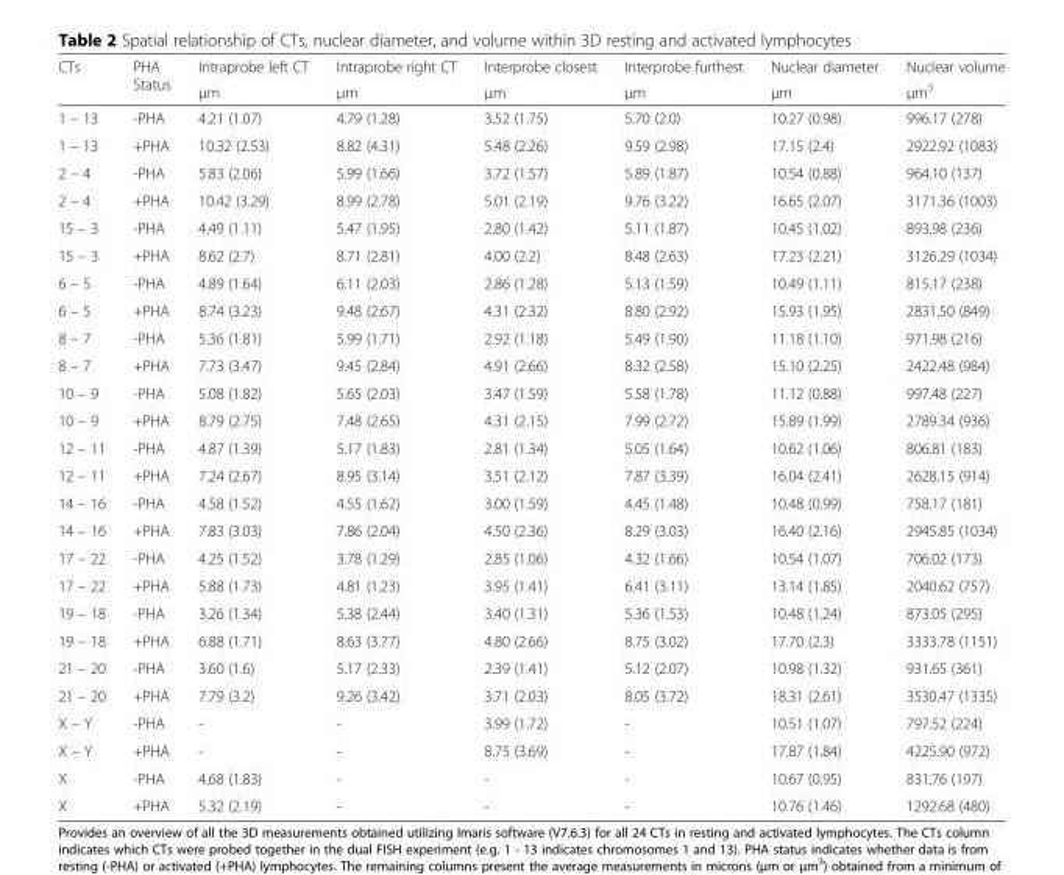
<table><thead><tr><td rowspan="2">CTs</td><td rowspan="2">PHA Status</td><td rowspan="2">Intraprobe left CT μm</td><td rowspan="2">Intraprobe right CT μm</td><td rowspan="2">Interprobe closest μm</td><td rowspan="2">Interprobe furthest μm</td><td rowspan="2">Nuclear diameter μm</td><td rowspan="2">Nuclear volume μm<sup>3</sup></td></tr><tr></tr></thead><tbody><tr><td>1 – 13</td><td>-PHA</td><td>4.21 (1.07)</td><td>4.79 (1.28)</td><td>3.52 (1.75)</td><td>5.70 (2.0)</td><td>10.27 (0.98)</td><td>996.17 (278)</td></tr><tr><td>1 – 13</td><td>+PHA</td><td>10.32 (2.53)</td><td>8.82 (4.31)</td><td>5.48 (2.26)</td><td>9.59 (2.98)</td><td>17.15 (2.4)</td><td>2922.92 (1083)</td></tr><tr><td>2 – 4</td><td>-PHA</td><td>5.83 (2.06)</td><td>5.99 (1.66)</td><td>3.72 (1.57)</td><td>5.89 (1.87)</td><td>10.54 (0.88)</td><td>964.10 (137)</td></tr><tr><td>2 – 4</td><td>+PHA</td><td>10.42 (3.29)</td><td>8.99 (2.78)</td><td>5.01 (2.19)</td><td>9.76 (3.22)</td><td>16.65 (2.07)</td><td>3171.36 (1003)</td></tr><tr><td>15 – 3</td><td>-PHA</td><td>4.49 (1.11)</td><td>5.47 (1.95)</td><td>2.80 (1.42)</td><td>5.11 (1.87)</td><td>10.45 (1.02)</td><td>893.98 (236)</td></tr><tr><td>15 – 3</td><td>+PHA</td><td>8.62 (2.7)</td><td>8.71 (2.81)</td><td>4.00 (2.2)</td><td>8.48 (2.63)</td><td>17.23 (2.21)</td><td>3126.29 (1034)</td></tr><tr><td>6 – 5</td><td>-PHA</td><td>4.89 (1.64)</td><td>6.11 (2.03)</td><td>2.86 (1.28)</td><td>5.13 (1.59)</td><td>10.49 (1.11)</td><td>815.17 (238)</td></tr><tr><td>6 – 5</td><td>+PHA</td><td>8.74 (3.23)</td><td>9.48 (2.67)</td><td>4.31 (2.32)</td><td>8.80 (2.92)</td><td>15.93 (1.95)</td><td>2831.50 (849)</td></tr><tr><td>8 – 7</td><td>-PHA</td><td>5.36 (1.81)</td><td>5.99 (1.71)</td><td>2.92 (1.18)</td><td>5.49 (1.90)</td><td>11.18 (1.10)</td><td>971.98 (216)</td></tr><tr><td>8 – 7</td><td>+PHA</td><td>7.73 (3.47)</td><td>9.45 (2.84)</td><td>4.91 (2.66)</td><td>8.32 (2.58)</td><td>15.10 (2.25)</td><td>2422.48 (984)</td></tr><tr><td>10 – 9</td><td>-PHA</td><td>5.08 (1.82)</td><td>5.65 (2.03)</td><td>3.47 (1.59)</td><td>5.58 (1.78)</td><td>11.12 (0.88)</td><td>997.48 (227)</td></tr><tr><td>10 – 9</td><td>+PHA</td><td>8.79 (2.75)</td><td>7.48 (2.65)</td><td>4.31 (2.15)</td><td>7.99 (2.72)</td><td>15.89 (1.99)</td><td>2789.34 (936)</td></tr><tr><td>12 – 11</td><td>-PHA</td><td>4.87 (1.39)</td><td>5.17 (1.83)</td><td>2.81 (1.34)</td><td>5.05 (1.64)</td><td>10.62 (1.06)</td><td>806.81 (183)</td></tr><tr><td>12 – 11</td><td>+PHA</td><td>7.24 (2.67)</td><td>8.95 (3.14)</td><td>3.51 (2.12)</td><td>7.87 (3.39)</td><td>16.04 (2.41)</td><td>2628.15 (914)</td></tr><tr><td>14 – 16</td><td>-PHA</td><td>4.58 (1.52)</td><td>4.55 (1.62)</td><td>3.00 (1.59)</td><td>4.45 (1.48)</td><td>10.48 (0.99)</td><td>758.17 (181)</td></tr><tr><td>14 – 16</td><td>+PHA</td><td>7.83 (3.03)</td><td>7.86 (2.04)</td><td>4.50 (2.36)</td><td>8.29 (3.03)</td><td>16.40 (2.16)</td><td>2945.85 (1034)</td></tr><tr><td>17 – 22</td><td>-PHA</td><td>4.25 (1.52)</td><td>3.78 (1.29)</td><td>2.85 (1.06)</td><td>4.32 (1.66)</td><td>10.54 (1.07)</td><td>706.02 (173)</td></tr><tr><td>17 – 22</td><td>+PHA</td><td>5.88 (1.73)</td><td>4.81 (1.23)</td><td>3.95 (1.41)</td><td>6.41 (3.11)</td><td>13.14 (1.85)</td><td>2040.62 (757)</td></tr><tr><td>19 – 18</td><td>-PHA</td><td>3.26 (1.34)</td><td>5.38 (2.44)</td><td>3.40 (1.31)</td><td>5.36 (1.53)</td><td>10.48 (1.24)</td><td>873.05 (295)</td></tr><tr><td>19 – 18</td><td>+PHA</td><td>6.88 (1.71)</td><td>8.63 (3.77)</td><td>4.80 (2.66)</td><td>8.75 (3.02)</td><td>17.70 (2.3)</td><td>3333.78 (1151)</td></tr><tr><td>21 – 20</td><td>-PHA</td><td>3.60 (1.6)</td><td>5.17 (2.33)</td><td>2.39 (1.41)</td><td>5.12 (2.07)</td><td>10.98 (1.32)</td><td>931.65 (361)</td></tr><tr><td>21 – 20</td><td>+PHA</td><td>7.79 (3.2)</td><td>9.26 (3.42)</td><td>3.71 (2.03)</td><td>8.05 (3.72)</td><td>18.31 (2.61)</td><td>3530.47 (1335)</td></tr><tr><td>X – Y</td><td>-PHA</td><td>-</td><td>-</td><td>3.99 (1.72)</td><td>-</td><td>10.51 (1.07)</td><td>797.52 (224)</td></tr><tr><td>X – Y</td><td>+PHA</td><td>-</td><td>-</td><td>8.75 (3.69)</td><td>-</td><td>17.87 (1.84)</td><td>4225.90 (972)</td></tr><tr><td>X</td><td>-PHA</td><td>4.68 (1.83)</td><td>-</td><td>-</td><td>-</td><td>10.67 (0.95)</td><td>831.76 (197)</td></tr><tr><td>X</td><td>+PHA</td><td>5.32 (2.19)</td><td>-</td><td>-</td><td>-</td><td>10.76 (1.46)</td><td>1292.68 (480)</td></tr></tbody></table>